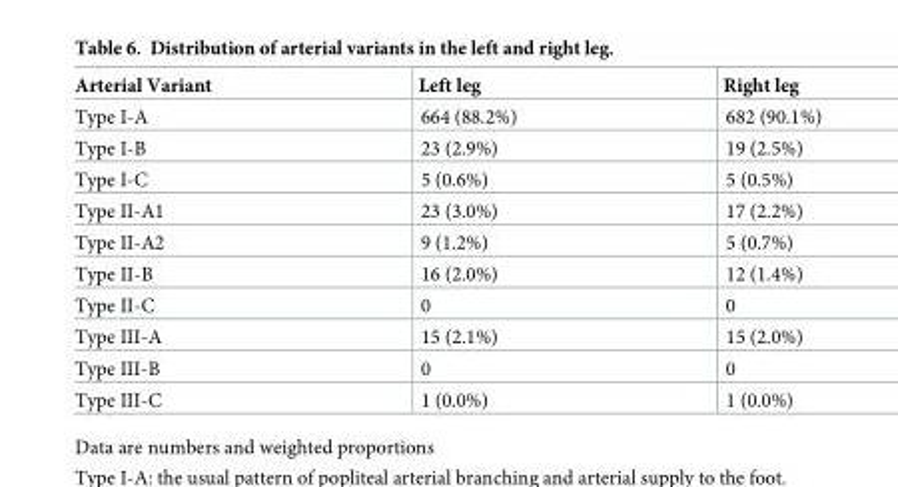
<table><thead><tr><td>Arterial Variant</td><td>Left leg</td><td>Right leg</td></tr></thead><tbody><tr><td>Type I-A</td><td>664 (88.2%)</td><td>682 (90.1%)</td></tr><tr><td>Type I-B</td><td>23 (2.9%)</td><td>19 (2.5%)</td></tr><tr><td>Type I-C</td><td>5 (0.6%)</td><td>5 (0.5%)</td></tr><tr><td>Type II-A1</td><td>23 (3.0%)</td><td>17 (2.2%)</td></tr><tr><td>Type II-A2</td><td>9 (1.2%)</td><td>5 (0.7%)</td></tr><tr><td>Type II-B</td><td>16 (2.0%)</td><td>12 (1.4%)</td></tr><tr><td>Type II-C</td><td>0</td><td>0</td></tr><tr><td>Type III-A</td><td>15 (2.1%)</td><td>15 (2.0%)</td></tr><tr><td>Type III-B</td><td>0</td><td>0</td></tr><tr><td>Type III-C</td><td>1 (0.0%)</td><td>1 (0.0%)</td></tr></tbody></table>